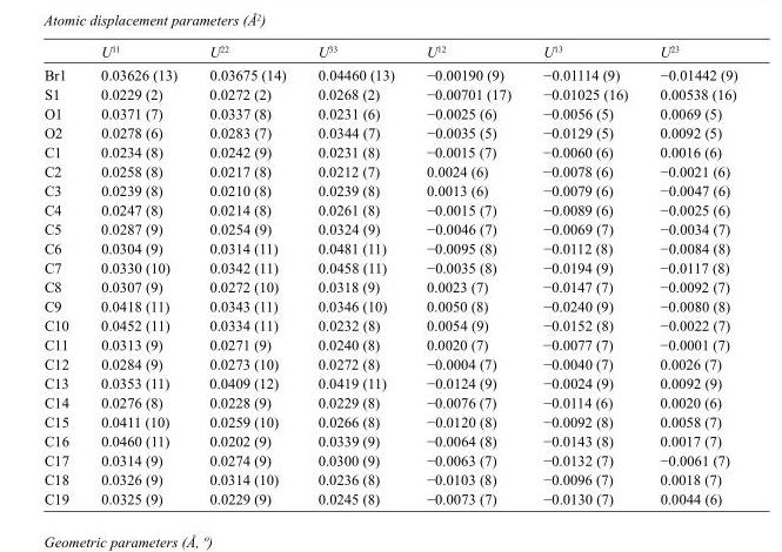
<table><thead><tr><td></td><td>U<sup>11</sup></td><td>U<sup>22</sup></td><td>U<sup>33</sup></td><td>U<sup>12</sup></td><td>U<sup>13</sup></td><td>U<sup>23</sup></td></tr></thead><tbody><tr><td>Br1</td><td>0.03626 (13)</td><td>0.03675 (14)</td><td>0.04460 (13)</td><td>−0.00190 (9)</td><td>−0.01114 (9)</td><td>−0.01442 (9)</td></tr><tr><td>S1</td><td>0.0229 (2)</td><td>0.0272 (2)</td><td>0.0268 (2)</td><td>−0.00701 (17)</td><td>−0.01025 (16)</td><td>0.00538 (16)</td></tr><tr><td>O1</td><td>0.0371 (7)</td><td>0.0337 (8)</td><td>0.0231 (6)</td><td>−0.0025 (6)</td><td>−0.0056 (5)</td><td>0.0069 (5)</td></tr><tr><td>O2</td><td>0.0278 (6)</td><td>0.0283 (7)</td><td>0.0344 (7)</td><td>−0.0035 (5)</td><td>−0.0129 (5)</td><td>0.0092 (5)</td></tr><tr><td>C1</td><td>0.0234 (8)</td><td>0.0242 (9)</td><td>0.0231 (8)</td><td>−0.0015 (7)</td><td>−0.0060 (6)</td><td>0.0016 (6)</td></tr><tr><td>C2</td><td>0.0258 (8)</td><td>0.0217 (8)</td><td>0.0212 (7)</td><td>0.0024 (6)</td><td>−0.0078 (6)</td><td>−0.0021 (6)</td></tr><tr><td>C3</td><td>0.0239 (8)</td><td>0.0210 (8)</td><td>0.0239 (8)</td><td>0.0013 (6)</td><td>−0.0079 (6)</td><td>−0.0047 (6)</td></tr><tr><td>C4</td><td>0.0247 (8)</td><td>0.0214 (8)</td><td>0.0261 (8)</td><td>−0.0015 (7)</td><td>−0.0089 (6)</td><td>−0.0025 (6)</td></tr><tr><td>C5</td><td>0.0287 (9)</td><td>0.0254 (9)</td><td>0.0324 (9)</td><td>−0.0046 (7)</td><td>−0.0069 (7)</td><td>−0.0034 (7)</td></tr><tr><td>C6</td><td>0.0304 (9)</td><td>0.0314 (11)</td><td>0.0481 (11)</td><td>−0.0095 (8)</td><td>−0.0112 (8)</td><td>−0.0084 (8)</td></tr><tr><td>C7</td><td>0.0330 (10)</td><td>0.0342 (11)</td><td>0.0458 (11)</td><td>−0.0035 (8)</td><td>−0.0194 (9)</td><td>−0.0117 (8)</td></tr><tr><td>C8</td><td>0.0307 (9)</td><td>0.0272 (10)</td><td>0.0318 (9)</td><td>0.0023 (7)</td><td>−0.0147 (7)</td><td>−0.0092 (7)</td></tr><tr><td>C9</td><td>0.0418 (11)</td><td>0.0343 (11)</td><td>0.0346 (10)</td><td>0.0050 (8)</td><td>−0.0240 (9)</td><td>−0.0080 (8)</td></tr><tr><td>C10</td><td>0.0452 (11)</td><td>0.0334 (11)</td><td>0.0232 (8)</td><td>0.0054 (9)</td><td>−0.0152 (8)</td><td>−0.0022 (7)</td></tr><tr><td>C11</td><td>0.0313 (9)</td><td>0.0271 (9)</td><td>0.0240 (8)</td><td>0.0020 (7)</td><td>−0.0077 (7)</td><td>−0.0001 (7)</td></tr><tr><td>C12</td><td>0.0284 (9)</td><td>0.0273 (10)</td><td>0.0272 (8)</td><td>−0.0004 (7)</td><td>−0.0040 (7)</td><td>0.0026 (7)</td></tr><tr><td>C13</td><td>0.0353 (11)</td><td>0.0409 (12)</td><td>0.0419 (11)</td><td>−0.0124 (9)</td><td>−0.0024 (9)</td><td>0.0092 (9)</td></tr><tr><td>C14</td><td>0.0276 (8)</td><td>0.0228 (9)</td><td>0.0229 (8)</td><td>−0.0076 (7)</td><td>−0.0114 (6)</td><td>0.0020 (6)</td></tr><tr><td>C15</td><td>0.0411 (10)</td><td>0.0259 (10)</td><td>0.0266 (8)</td><td>−0.0120 (8)</td><td>−0.0092 (8)</td><td>0.0058 (7)</td></tr><tr><td>C16</td><td>0.0460 (11)</td><td>0.0202 (9)</td><td>0.0339 (9)</td><td>−0.0064 (8)</td><td>−0.0143 (8)</td><td>0.0017 (7)</td></tr><tr><td>C17</td><td>0.0314 (9)</td><td>0.0274 (9)</td><td>0.0300 (9)</td><td>−0.0063 (7)</td><td>−0.0132 (7)</td><td>−0.0061 (7)</td></tr><tr><td>C18</td><td>0.0326 (9)</td><td>0.0314 (10)</td><td>0.0236 (8)</td><td>−0.0103 (8)</td><td>−0.0096 (7)</td><td>0.0018 (7)</td></tr><tr><td>C19</td><td>0.0325 (9)</td><td>0.0229 (9)</td><td>0.0245 (8)</td><td>−0.0073 (7)</td><td>−0.0130 (7)</td><td>0.0044 (6)</td></tr></tbody></table>